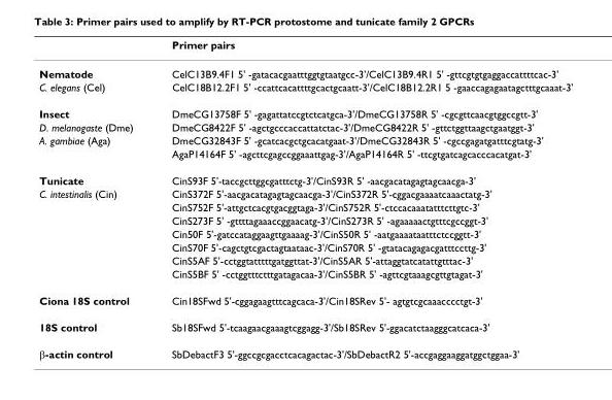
<table><thead><tr><td></td><td>Primer pairs</td></tr></thead><tbody><tr><td>Nematode</td><td>CelC13B9.4F1 5&#x27; -gatacacgaatttggtgtaatgcc-3&#x27;/CelC13B9.4R1 5&#x27; -gttcgtgtgaggaccattttcac-3&#x27;</td></tr><tr><td>C. elegans (Cel)</td><td>CelC18B12.2F1 5&#x27; -ccattcacattttgcactgcaatt-3&#x27;/CelC18B12.2R1 5 -gaaccagagaatagctttgcaaat-3&#x27;</td></tr><tr><td>Insect</td><td>DmeCG13758F 5&#x27; -gagattatccgtctcatgca-3&#x27;/DmeCG13758R 5&#x27; -cgcgttcaacgtggccgtt-3&#x27;</td></tr><tr><td>D. melanogaste (Dme)</td><td>DmeCG8422F 5&#x27; -agctgcccaccattatctac-3&#x27;/DmeCG8422R 5&#x27; -gttctggttaagctgaatggt-3&#x27;</td></tr><tr><td rowspan="2">A. gambiae (Aga)</td><td>DmeCG32843F 5&#x27; -gcatcacgctgcacatgaat-3&#x27;/DmeCG32843R 5&#x27; -cgccgagatgatttcgtatg-3&#x27;</td></tr><tr><td>AgaP14164F 5&#x27; -agcttcgagccggaaattgag-3&#x27;/AgaP14164R 5&#x27; -ttcgtgatcagcacccacatgat-3&#x27;</td></tr><tr><td>Tunicate</td><td>CinS93F 5&#x27;-taccgcttggcgatttctg-3&#x27;/CinS93R 5&#x27; -aacgacatagagtagcaacga-3&#x27;</td></tr><tr><td rowspan="7">C. intestinalis (Cin)</td><td>CinS372F 5&#x27;-aacgacatagagtagcaacga-3&#x27;/CinS372R 5&#x27;-cggacgaaaatcaaactatg-3&#x27;</td></tr><tr><td>CinS752F 5&#x27;-attgctcacgtgacggtaga-3&#x27;/CinS752R 5&#x27;-ctccacaaatatttcttgtc-3&#x27;</td></tr><tr><td>CinS273F 5&#x27; -gttttagaaaccggaacatg-3&#x27;/CinS273R 5&#x27; -agaaaaactgtttcgccggt-3&#x27;</td></tr><tr><td>Cin50F 5&#x27;-gatccataggaagttgaaaag-3&#x27;/CinS50R 5&#x27; -aatgaaaataatttctccggtt-3&#x27;</td></tr><tr><td>CinS70F 5&#x27;-cagctgtcgactagtaataac-3&#x27;/CinS70R 5&#x27; -gtatacagagacgatttccttg-3&#x27;</td></tr><tr><td>CinS5AF 5&#x27;-cctggtatttttgatggttat-3&#x27;/CinS5AR 5&#x27;-attaggtatcatattgtttac-3&#x27;</td></tr><tr><td>CinS5BF 5&#x27; -cctggtttctttgatagacaa-3&#x27;/CinS5BR 5&#x27; -agttcgtaaagcgttgtagat-3&#x27;</td></tr><tr><td>Ciona 18S control</td><td>Cin18SFwd 5&#x27;-cggagaagtttcagcaca-3&#x27;/Cin18SRev 5&#x27;- agtgtcgcaaacccctgt-3&#x27;</td></tr><tr><td>18S control</td><td>Sb18SFwd 5&#x27;-tcaagaacgaaagtcggagg-3&#x27;/Sb18SRev 5&#x27;-ggacatctaagggcatcaca-3&#x27;</td></tr><tr><td>β-actin control</td><td>SbDebactF3 5&#x27;-ggccgcgacctcacagactac-3&#x27;/SbDebactR2 5&#x27;-accgaggaaggatggctggaa-3&#x27;</td></tr></tbody></table>